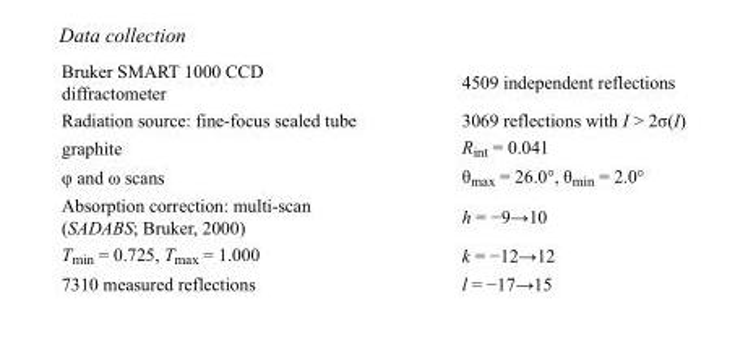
<table><tbody><tr><td>Bruker SMART 1000 CCD diffractometer</td><td>4509 independent reflections</td></tr><tr><td>Radiation source: fine-focus sealed tube</td><td>3069 reflections with I &gt; 2σ(I)</td></tr><tr><td>graphite</td><td>R<sub>int</sub> = 0.041</td></tr><tr><td>φ and ω scans</td><td>θ<sub>max</sub> = 26.0°, θ<sub>min</sub> = 2.0°</td></tr><tr><td>Absorption correction: multi-scan (SADABS; Bruker, 2000)</td><td>h = −9→10</td></tr><tr><td>T<sub>min</sub> = 0.725, T<sub>max</sub> = 1.000</td><td>k = −12→12</td></tr><tr><td>7310 measured reflections</td><td>l = −17→15</td></tr></tbody></table>